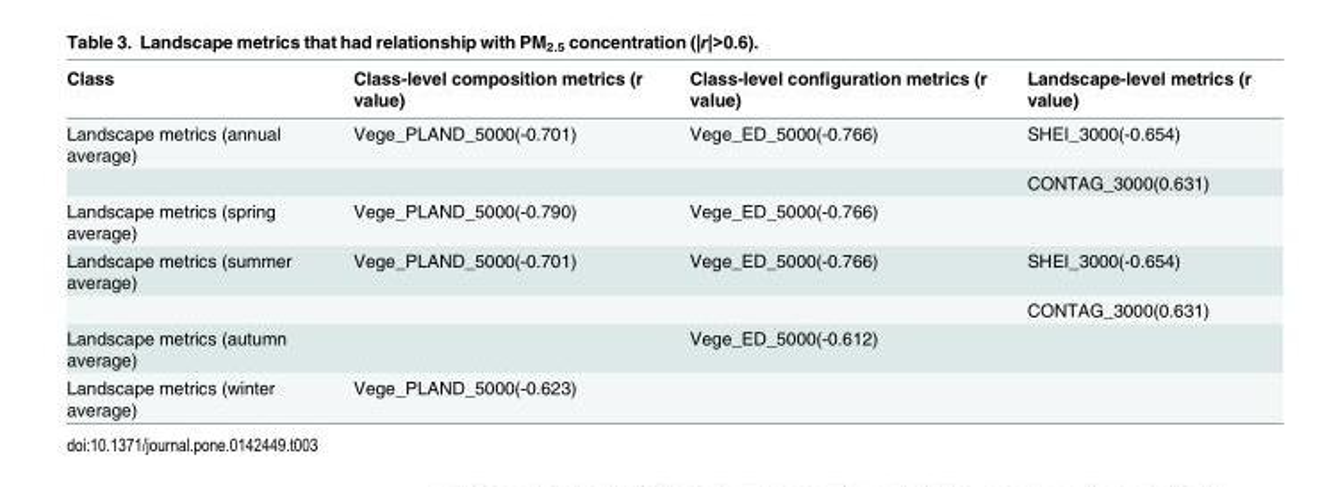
<table><thead><tr><td>Class</td><td>Class-level composition metrics (r value)</td><td>Class-level configuration metrics (r value)</td><td>Landscape-level metrics (r value)</td></tr></thead><tbody><tr><td rowspan="2">Landscape metrics (annual average)</td><td>Vege_PLAND_5000(-0.701)</td><td>Vege_ED_5000(-0.766)</td><td>SHEI_3000(-0.654)</td></tr><tr><td></td><td></td><td>CONTAG_3000(0.631)</td></tr><tr><td>Landscape metrics (spring average)</td><td>Vege_PLAND_5000(-0.790)</td><td>Vege_ED_5000(-0.766)</td><td></td></tr><tr><td rowspan="2">Landscape metrics (summer average)</td><td>Vege_PLAND_5000(-0.701)</td><td>Vege_ED_5000(-0.766)</td><td>SHEI_3000(-0.654)</td></tr><tr><td></td><td></td><td>CONTAG_3000(0.631)</td></tr><tr><td>Landscape metrics (autumn average)</td><td></td><td>Vege_ED_5000(-0.612)</td><td></td></tr><tr><td>Landscape metrics (winter average)</td><td>Vege_PLAND_5000(-0.623)</td><td></td><td></td></tr></tbody></table>